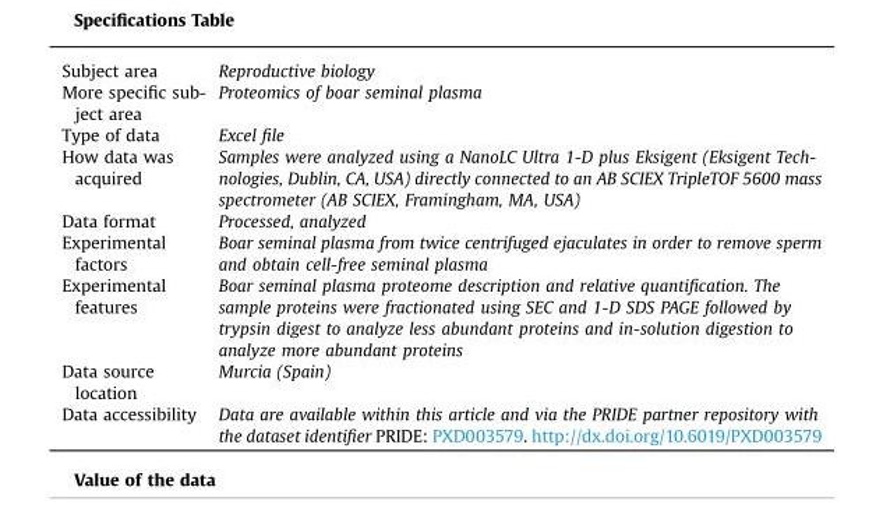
<table><thead><tr><td>Subject area</td><td>Reproductive biology</td></tr></thead><tbody><tr><td>More specific sub- ject area</td><td>Proteomics of boar seminal plasma</td></tr><tr><td>Type of data</td><td>Excel file</td></tr><tr><td>How data was acquired</td><td>Samples were analyzed using a NanoLC Ultra 1-D plus Eksigent (Eksigent Tech- nologies, Dublin, CA, USA) directly connected to an AB SCIEX TripleTOF 5600 mass spectrometer (AB SCIEX, Framingham, MA, USA)</td></tr><tr><td>Data format</td><td>Processed, analyzed</td></tr><tr><td>Experimental factors</td><td>Boar seminal plasma from twice centrifuged ejaculates in order to remove sperm and obtain cell-free seminal plasma</td></tr><tr><td>Experimental features</td><td>Boar seminal plasma proteome description and relative quantification. The sample proteins were fractionated using SEC and 1-D SDS PAGE followed by trypsin digest to analyze less abundant proteins and in-solution digestion to analyze more abundant proteins</td></tr><tr><td>Data source location</td><td>Murcia (Spain)</td></tr><tr><td>Data accessibility</td><td>Data are available within this article and via the PRIDE partner repository with the dataset identifier PRIDE: PXD003579. http://dx.doi.org/10.6019/PXD003579</td></tr></tbody></table>